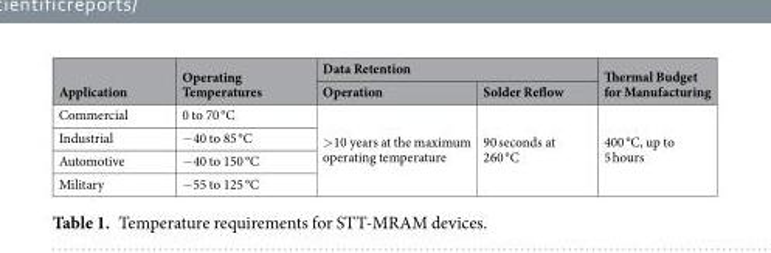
<table><thead><tr><td rowspan="2">Application</td><td rowspan="2">Operating Temperatures</td><td colspan="2">Data Retention</td><td rowspan="2">Thermal Budget for Manufacturing</td></tr><tr><td>Operation</td><td>Solder Reflow</td></tr></thead><tbody><tr><td>Commercial</td><td>0 to 70 °C</td><td rowspan="4">&gt;10 years at the maximum operating temperature</td><td rowspan="4">90 seconds at 260 °C</td><td rowspan="4">400 °C, up to 5 hours</td></tr><tr><td>Industrial</td><td>−40 to 85 °C</td></tr><tr><td>Automotive</td><td>−40 to 150 °C</td></tr><tr><td>Military</td><td>−55 to 125 °C</td></tr></tbody></table>